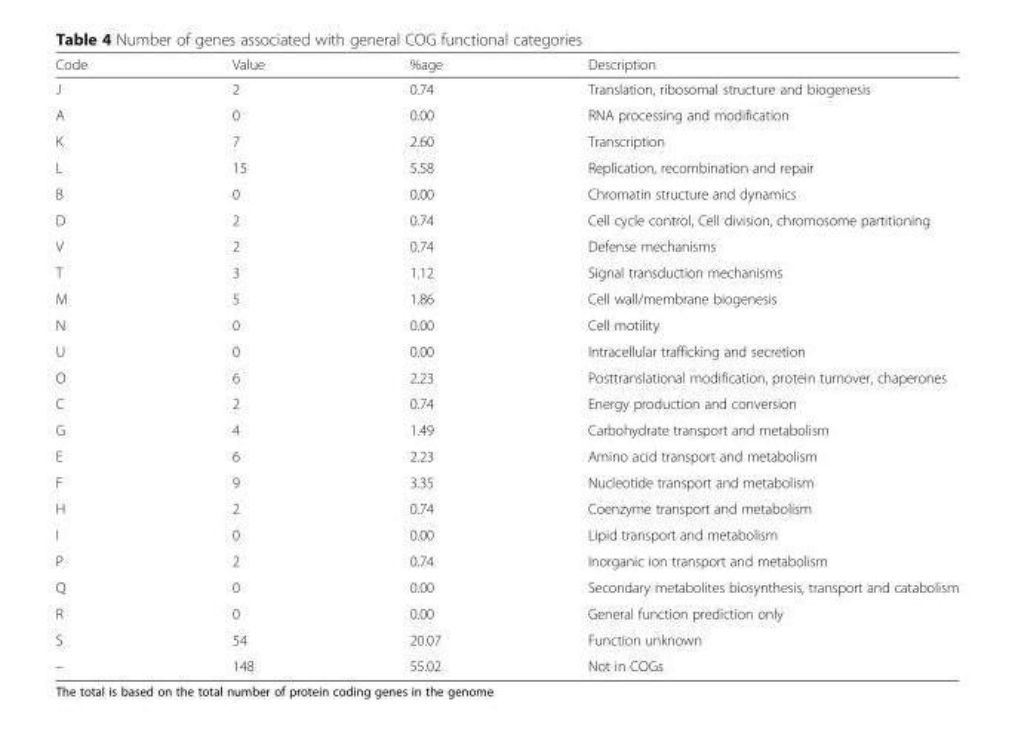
<table><thead><tr><td>Code</td><td>Value</td><td>%age</td><td>Description</td></tr></thead><tbody><tr><td>J</td><td>2</td><td>0.74</td><td>Translation, ribosomal structure and biogenesis</td></tr><tr><td>A</td><td>0</td><td>0.00</td><td>RNA processing and modification</td></tr><tr><td>K</td><td>7</td><td>2.60</td><td>Transcription</td></tr><tr><td>L</td><td>15</td><td>5.58</td><td>Replication, recombination and repair</td></tr><tr><td>B</td><td>0</td><td>0.00</td><td>Chromatin structure and dynamics</td></tr><tr><td>D</td><td>2</td><td>0.74</td><td>Cell cycle control, Cell division, chromosome partitioning</td></tr><tr><td>V</td><td>2</td><td>0.74</td><td>Defense mechanisms</td></tr><tr><td>T</td><td>3</td><td>1.12</td><td>Signal transduction mechanisms</td></tr><tr><td>M</td><td>5</td><td>1.86</td><td>Cell wall/membrane biogenesis</td></tr><tr><td>N</td><td>0</td><td>0.00</td><td>Cell motility</td></tr><tr><td>U</td><td>0</td><td>0.00</td><td>Intracellular trafficking and secretion</td></tr><tr><td>O</td><td>6</td><td>2.23</td><td>Posttranslational modification, protein turnover, chaperones</td></tr><tr><td>C</td><td>2</td><td>0.74</td><td>Energy production and conversion</td></tr><tr><td>G</td><td>4</td><td>1.49</td><td>Carbohydrate transport and metabolism</td></tr><tr><td>E</td><td>6</td><td>2.23</td><td>Amino acid transport and metabolism</td></tr><tr><td>F</td><td>9</td><td>3.35</td><td>Nucleotide transport and metabolism</td></tr><tr><td>H</td><td>2</td><td>0.74</td><td>Coenzyme transport and metabolism</td></tr><tr><td>I</td><td>0</td><td>0.00</td><td>Lipid transport and metabolism</td></tr><tr><td>P</td><td>2</td><td>0.74</td><td>Inorganic ion transport and metabolism</td></tr><tr><td>Q</td><td>0</td><td>0.00</td><td>Secondary metabolites biosynthesis, transport and catabolism</td></tr><tr><td>R</td><td>0</td><td>0.00</td><td>General function prediction only</td></tr><tr><td>S</td><td>54</td><td>20.07</td><td>Function unknown</td></tr><tr><td>–</td><td>148</td><td>55.02</td><td>Not in COGs</td></tr></tbody></table>